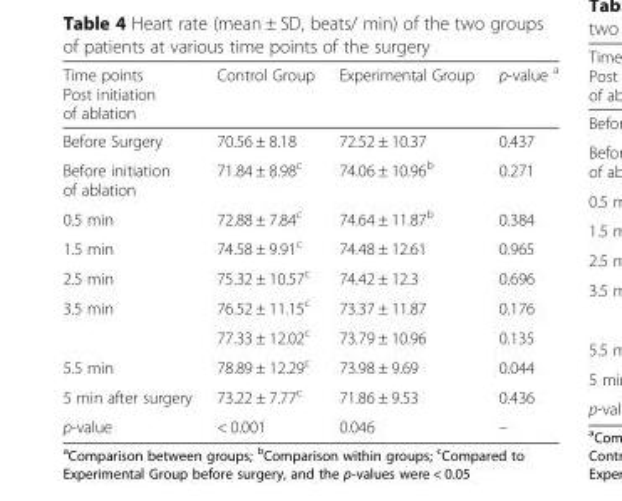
<table><thead><tr><td>Time points Post initiation of ablation</td><td>Control Group</td><td>Experimental Group</td><td>p-value <sup>a</sup></td></tr></thead><tbody><tr><td>Before Surgery</td><td>70.56 ± 8.18</td><td>72.52 ± 10.37</td><td>0.437</td></tr><tr><td>Before initiation of ablation</td><td>71.84 ± 8.98<sup>c</sup></td><td>74.06 ± 10.96<sup>b</sup></td><td>0.271</td></tr><tr><td>0.5 min</td><td>72.88 ± 7.84<sup>c</sup></td><td>74.64 ± 11.87<sup>b</sup></td><td>0.384</td></tr><tr><td>1.5 min</td><td>74.58 ± 9.91<sup>c</sup></td><td>74.48 ± 12.61</td><td>0.965</td></tr><tr><td>2.5 min</td><td>75.32 ± 10.57<sup>c</sup></td><td>74.42 ± 12.3</td><td>0.696</td></tr><tr><td rowspan="2">3.5 min</td><td>76.52 ± 11.15<sup>c</sup></td><td>73.37 ± 11.87</td><td>0.176</td></tr><tr><td>77.33 ± 12.02<sup>c</sup></td><td>73.79 ± 10.96</td><td>0.135</td></tr><tr><td>5.5 min</td><td>78.89 ± 12.29<sup>c</sup></td><td>73.98 ± 9.69</td><td>0.044</td></tr><tr><td>5 min after surgery</td><td>73.22 ± 7.77<sup>c</sup></td><td>71.86 ± 9.53</td><td>0.436</td></tr><tr><td>p-value</td><td>&lt; 0.001</td><td>0.046</td><td>–</td></tr></tbody></table>